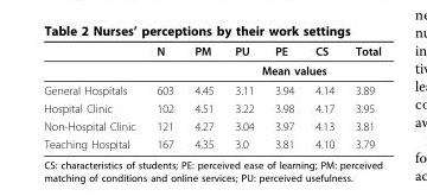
<table><thead><tr><td></td><td>N</td><td>PM</td><td>PU</td><td>PE</td><td>CS</td><td>Total</td></tr></thead><tbody><tr><td></td><td></td><td colspan="5">Mean values</td></tr><tr><td>General Hospitals</td><td>603</td><td>4.45</td><td>3.11</td><td>3.94</td><td>4.14</td><td>3.89</td></tr><tr><td>Hospital Clinic</td><td>102</td><td>4.51</td><td>3.22</td><td>3.98</td><td>4.17</td><td>3.95</td></tr><tr><td>Non-Hospital Clinic</td><td>121</td><td>4.27</td><td>3.04</td><td>3.97</td><td>4.13</td><td>3.81</td></tr><tr><td>Teaching Hospital</td><td>167</td><td>4.35</td><td>3.0</td><td>3.81</td><td>4.10</td><td>3.79</td></tr></tbody></table>